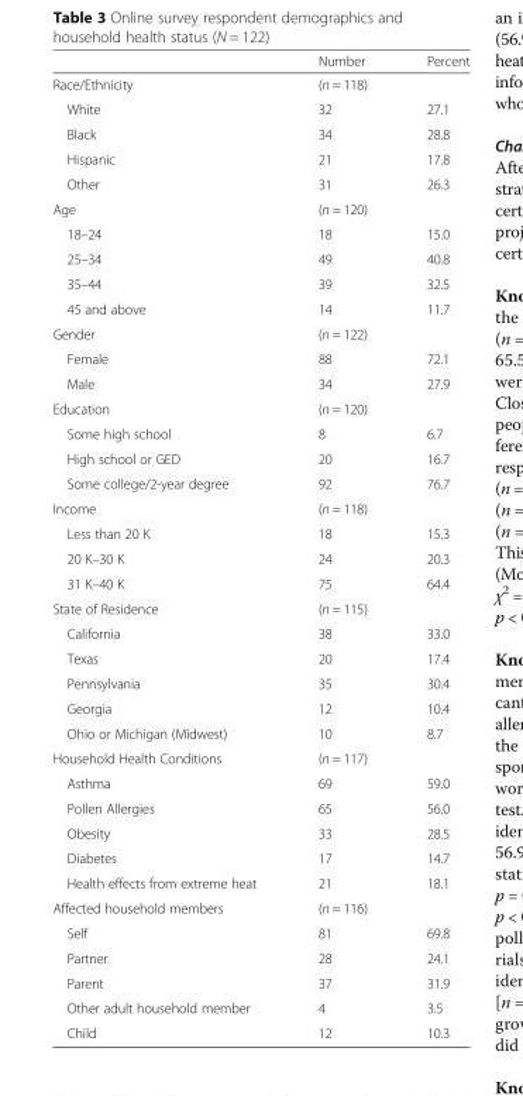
<table><thead><tr><td></td><td>Number</td><td>Percent</td></tr></thead><tbody><tr><td>Race/Ethnicity</td><td colspan="2">(n = 118)</td></tr><tr><td>White</td><td>32</td><td>27.1</td></tr><tr><td>Black</td><td>34</td><td>28.8</td></tr><tr><td>Hispanic</td><td>21</td><td>17.8</td></tr><tr><td>Other</td><td>31</td><td>26.3</td></tr><tr><td>Age</td><td colspan="2">(n = 120)</td></tr><tr><td>18–24</td><td>18</td><td>15.0</td></tr><tr><td>25–34</td><td>49</td><td>40.8</td></tr><tr><td>35–44</td><td>39</td><td>32.5</td></tr><tr><td>45 and above</td><td>14</td><td>11.7</td></tr><tr><td>Gender</td><td colspan="2">(n = 122)</td></tr><tr><td>Female</td><td>88</td><td>72.1</td></tr><tr><td>Male</td><td>34</td><td>27.9</td></tr><tr><td>Education</td><td colspan="2">(n = 120)</td></tr><tr><td>Some high school</td><td>8</td><td>6.7</td></tr><tr><td>High school or GED</td><td>20</td><td>16.7</td></tr><tr><td>Some college/2-year degree</td><td>92</td><td>76.7</td></tr><tr><td>Income</td><td colspan="2">(n = 118)</td></tr><tr><td>Less than 20 K</td><td>18</td><td>15.3</td></tr><tr><td>20 K–30 K</td><td>24</td><td>20.3</td></tr><tr><td>31 K–40 K</td><td>75</td><td>64.4</td></tr><tr><td>State of Residence</td><td colspan="2">(n = 115)</td></tr><tr><td>California</td><td>38</td><td>33.0</td></tr><tr><td>Texas</td><td>20</td><td>17.4</td></tr><tr><td>Pennsylvania</td><td>35</td><td>30.4</td></tr><tr><td>Georgia</td><td>12</td><td>10.4</td></tr><tr><td>Ohio or Michigan (Midwest)</td><td>10</td><td>8.7</td></tr><tr><td>Household Health Conditions</td><td colspan="2">(n = 117)</td></tr><tr><td>Asthma</td><td>69</td><td>59.0</td></tr><tr><td>Pollen Allergies</td><td>65</td><td>56.0</td></tr><tr><td>Obesity</td><td>33</td><td>28.5</td></tr><tr><td>Diabetes</td><td>17</td><td>14.7</td></tr><tr><td>Health effects from extreme heat</td><td>21</td><td>18.1</td></tr><tr><td>Affected household members</td><td colspan="2">(n = 116)</td></tr><tr><td>Self</td><td>81</td><td>69.8</td></tr><tr><td>Partner</td><td>28</td><td>24.1</td></tr><tr><td>Parent</td><td>37</td><td>31.9</td></tr><tr><td>Other adult household member</td><td>4</td><td>3.5</td></tr><tr><td>Child</td><td>12</td><td>10.3</td></tr></tbody></table>